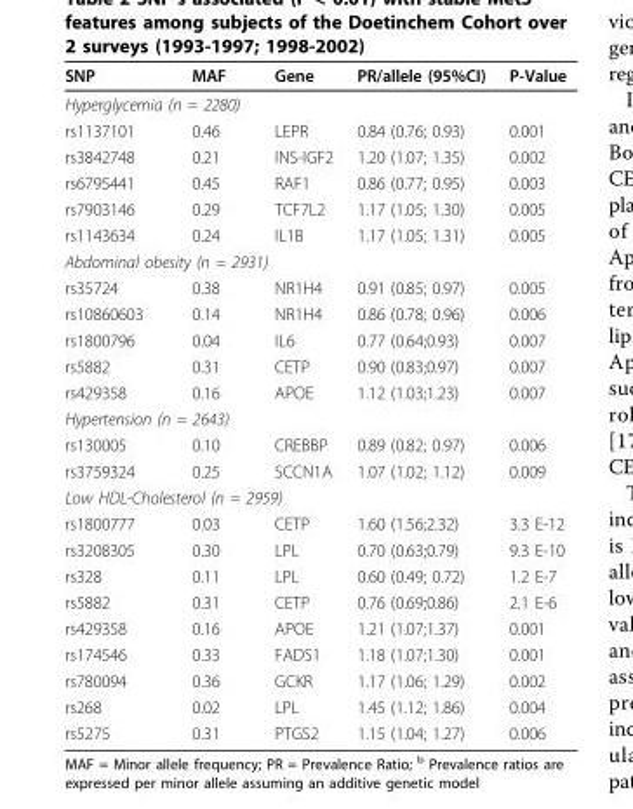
<table><thead><tr><td>SNP</td><td>MAF</td><td>Gene</td><td>PR/allele (95%CI)</td><td>P-Value</td></tr></thead><tbody><tr><td colspan="5">Hyperglycemia (n = 2280)</td></tr><tr><td>rs1137101</td><td>0.46</td><td>LEPR</td><td>0.84 (0.76; 0.93)</td><td>0.001</td></tr><tr><td>rs3842748</td><td>0.21</td><td>INS-IGF2</td><td>1.20 (1.07; 1.35)</td><td>0.002</td></tr><tr><td>rs6795441</td><td>0.45</td><td>RAF1</td><td>0.86 (0.77; 0.95)</td><td>0.003</td></tr><tr><td>rs7903146</td><td>0.29</td><td>TCF7L2</td><td>1.17 (1.05; 1.30)</td><td>0.005</td></tr><tr><td>rs1143634</td><td>0.24</td><td>IL1B</td><td>1.17 (1.05; 1.31)</td><td>0.005</td></tr><tr><td colspan="5">Abdominal obesity (n = 2931)</td></tr><tr><td>rs35724</td><td>0.38</td><td>NR1H4</td><td>0.91 (0.85; 0.97)</td><td>0.005</td></tr><tr><td>rs10860603</td><td>0.14</td><td>NR1H4</td><td>0.86 (0.78; 0.96)</td><td>0.006</td></tr><tr><td>rs1800796</td><td>0.04</td><td>IL6</td><td>0.77 (0.64;0.93)</td><td>0.007</td></tr><tr><td>rs5882</td><td>0.31</td><td>CETP</td><td>0.90 (0.83;0.97)</td><td>0.007</td></tr><tr><td>rs429358</td><td>0.16</td><td>APOE</td><td>1.12 (1.03;1.23)</td><td>0.007</td></tr><tr><td colspan="5">Hypertension (n = 2643)</td></tr><tr><td>rs130005</td><td>0.10</td><td>CREBBP</td><td>0.89 (0.82; 0.97)</td><td>0.006</td></tr><tr><td>rs3759324</td><td>0.25</td><td>SCCN1A</td><td>1.07 (1.02; 1.12)</td><td>0.009</td></tr><tr><td colspan="5">Low HDL-Cholesterol (n = 2959)</td></tr><tr><td>rs1800777</td><td>0.03</td><td>CETP</td><td>1.60 (1.56;2.32)</td><td>3.3 E-12</td></tr><tr><td>rs3208305</td><td>0.30</td><td>LPL</td><td>0.70 (0.63;0.79)</td><td>9.3 E-10</td></tr><tr><td>rs328</td><td>0.11</td><td>LPL</td><td>0.60 (0.49; 0.72)</td><td>1.2 E-7</td></tr><tr><td>rs5882</td><td>0.31</td><td>CETP</td><td>0.76 (0.69;0.86)</td><td>2.1 E-6</td></tr><tr><td>rs429358</td><td>0.16</td><td>APOE</td><td>1.21 (1.07;1.37)</td><td>0.001</td></tr><tr><td>rs174546</td><td>0.33</td><td>FADS1</td><td>1.18 (1.07;1.30)</td><td>0.001</td></tr><tr><td>rs780094</td><td>0.36</td><td>GCKR</td><td>1.17 (1.06; 1.29)</td><td>0.002</td></tr><tr><td>rs268</td><td>0.02</td><td>LPL</td><td>1.45 (1.12; 1.86)</td><td>0.004</td></tr><tr><td>rs5275</td><td>0.31</td><td>PTGS2</td><td>1.15 (1.04; 1.27)</td><td>0.006</td></tr></tbody></table>